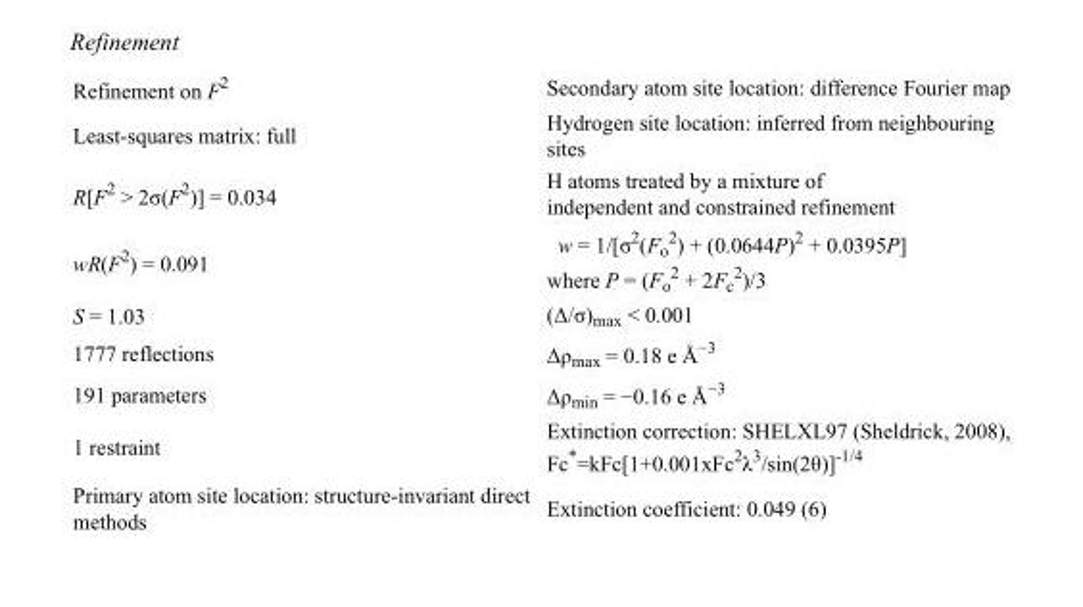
<table><tbody><tr><td>Refinement on F<sup>2</sup></td><td>Secondary atom site location: difference Fourier map</td></tr><tr><td>Least-squares matrix: full</td><td>Hydrogen site location: inferred from neighbouring sites</td></tr><tr><td>R[F<sup>2</sup> &gt; 2σ(F<sup>2</sup>)] = 0.034</td><td>H atoms treated by a mixture of independent and constrained refinement</td></tr><tr><td>wR(F<sup>2</sup>) = 0.091</td><td>w = 1/[σ<sup>2</sup>(F<sub>o</sub> <sup>2</sup>) + (0.0644P)<sup>2</sup> + 0.0395P] where P = (F<sub>o</sub> <sup>2</sup> + 2F<sub>c</sub> <sup>2</sup>)/3</td></tr><tr><td>S = 1.03</td><td>(Δ/σ)<sub>max</sub> &lt; 0.001</td></tr><tr><td>1777 reflections</td><td>Δρ<sub>max</sub> = 0.18 e Å<sup>−3</sup></td></tr><tr><td>191 parameters</td><td>Δρ<sub>min</sub> = −0.16 e Å<sup>−3</sup></td></tr><tr><td>1 restraint</td><td>Extinction correction: SHELXL97 (Sheldrick, 2008), Fc*=kFc[1+0.001xFc<sup>2</sup>λ<sup>3</sup>/sin(2θ)]<sup>-1/4</sup></td></tr><tr><td>Primary atom site location: structure-invariant direct methods</td><td>Extinction coefficient: 0.049 (6)</td></tr></tbody></table>